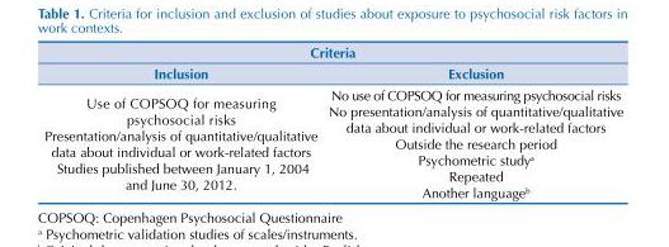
<table><thead><tr><td colspan="2">Criteria</td></tr><tr><td>Inclusion</td><td>Exclusion</td></tr></thead><tbody><tr><td>Use of COPSOQ for measuring psychosocial risks Presentation/analysis of quantitative/qualitative data about individual or work-related factors Studies published between January 1, 2004 and June 30, 2012.</td><td>No use of COPSOQ for measuring psychosocial risks No presentation/analysis of quantitative/qualitative data about individual or work-related factors Outside the research period Psychometric study<sup>a</sup> Repeated Another language<sup>b</sup></td></tr></tbody></table>